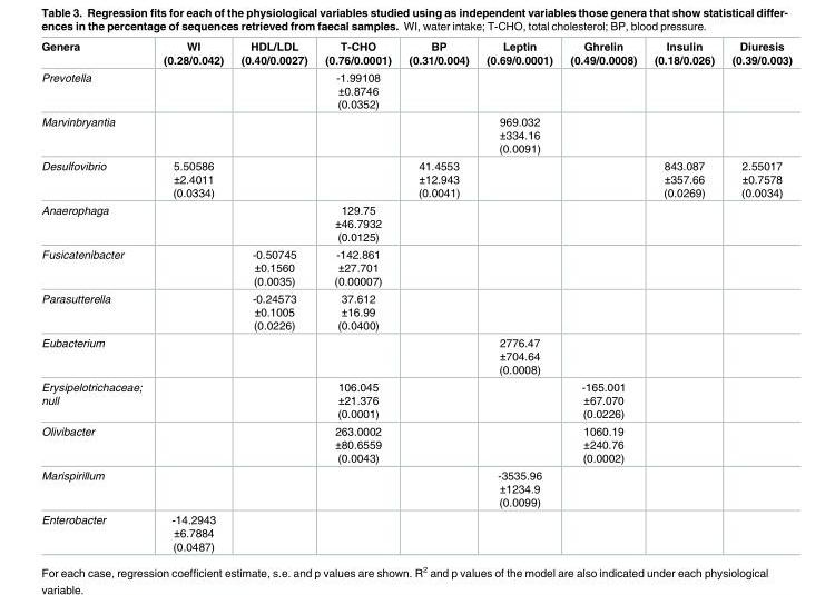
<table><thead><tr><td>Genera</td><td>WI (0.28/0.042)</td><td>HDL/LDL (0.40/0.0027)</td><td>T-CHO (0.76/0.0001)</td><td>BP (0.31/0.004)</td><td>Leptin (0.69/0.0001)</td><td>Ghrelin (0.49/0.0008)</td><td>Insulin (0.18/0.026)</td><td>Diuresis (0.39/0.003)</td></tr></thead><tbody><tr><td>Prevotella</td><td></td><td></td><td>-1.99108 ±0.8746 (0.0352)</td><td></td><td></td><td></td><td></td><td></td></tr><tr><td>Marvinbryantia</td><td></td><td></td><td></td><td></td><td>969.032 ±334.16 (0.0091)</td><td></td><td></td><td></td></tr><tr><td>Desulfovibrio</td><td>5.50586 ±2.4011 (0.0334)</td><td></td><td></td><td>41.4553 ±12.943 (0.0041)</td><td></td><td></td><td>843.087 ±357.66 (0.0269)</td><td>2.55017 ±0.7578 (0.0034)</td></tr><tr><td>Anaerophaga</td><td></td><td></td><td>129.75 ±46.7932 (0.0125)</td><td></td><td></td><td></td><td></td><td></td></tr><tr><td>Fusicatenibacter</td><td></td><td>-0.50745 ±0.1560 (0.0035)</td><td>-142.861 ±27.701 (0.00007)</td><td></td><td></td><td></td><td></td><td></td></tr><tr><td>Parasutterella</td><td></td><td>-0.24573 ±0.1005 (0.0226)</td><td>37.612 ±16.99 (0.0400)</td><td></td><td></td><td></td><td></td><td></td></tr><tr><td>Eubacterium</td><td></td><td></td><td></td><td></td><td>2776.47 ±704.64 (0.0008)</td><td></td><td></td><td></td></tr><tr><td>Erysipelotrichaceae; null</td><td></td><td></td><td>106.045 ±21.376 (0.0001)</td><td></td><td></td><td>-165.001 ±67.070 (0.0226)</td><td></td><td></td></tr><tr><td>Olivibacter</td><td></td><td></td><td>263.0002 ±80.6559 (0.0043)</td><td></td><td></td><td>1060.19 ±240.76 (0.0002)</td><td></td><td></td></tr><tr><td>Marispirillum</td><td></td><td></td><td></td><td></td><td>-3535.96 ±1234.9 (0.0099)</td><td></td><td></td><td></td></tr><tr><td>Enterobacter</td><td>-14.2943 ±6.7884 (0.0487)</td><td></td><td></td><td></td><td></td><td></td><td></td><td></td></tr></tbody></table>